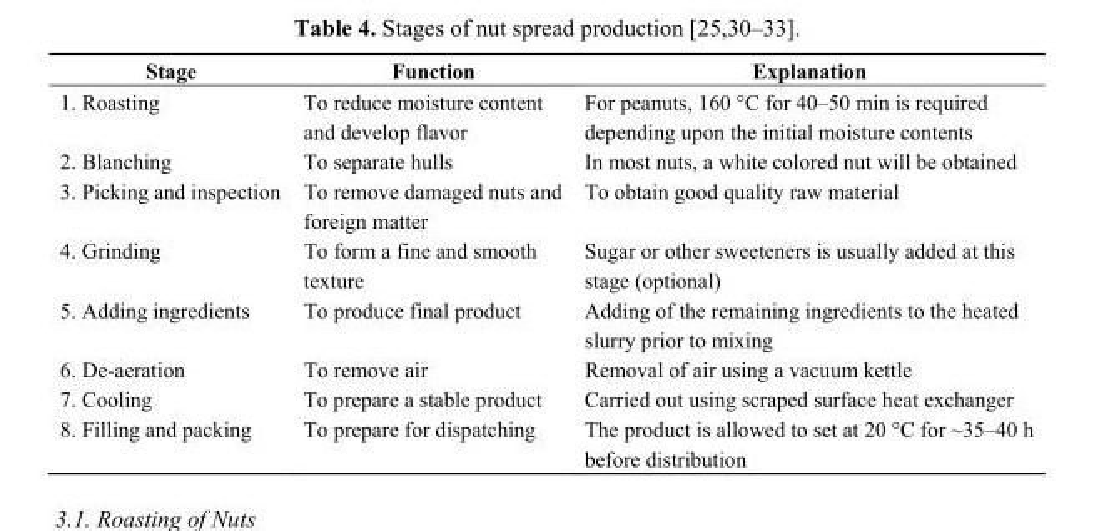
<table><thead><tr><td>Stage</td><td>Function</td><td>Explanation</td></tr></thead><tbody><tr><td>1. Roasting</td><td>To reduce moisture content and develop flavor</td><td>For peanuts, 160 °C for 40–50 min is required depending upon the initial moisture contents</td></tr><tr><td>2. Blanching</td><td>To separate hulls</td><td>In most nuts, a white colored nut will be obtained</td></tr><tr><td>3. Picking and inspection</td><td>To remove damaged nuts and foreign matter</td><td>To obtain good quality raw material</td></tr><tr><td>4. Grinding</td><td>To form a fine and smooth texture</td><td>Sugar or other sweeteners is usually added at this stage (optional)</td></tr><tr><td>5. Adding ingredients</td><td>To produce final product</td><td>Adding of the remaining ingredients to the heated slurry prior to mixing</td></tr><tr><td>6. De-aeration</td><td>To remove air</td><td>Removal of air using a vacuum kettle</td></tr><tr><td>7. Cooling</td><td>To prepare a stable product</td><td>Carried out using scraped surface heat exchanger</td></tr><tr><td>8. Filling and packing</td><td>To prepare for dispatching</td><td>The product is allowed to set at 20 °C for ~35–40 h before distribution</td></tr></tbody></table>